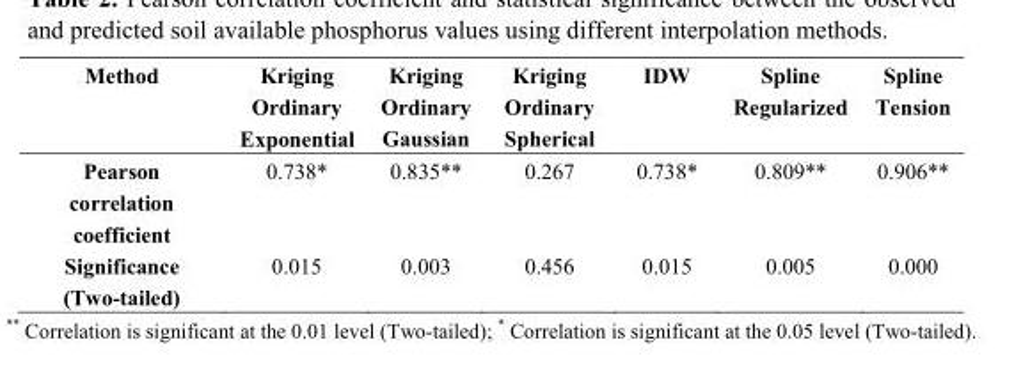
<table><thead><tr><td>Method</td><td>Kriging Ordinary Exponential</td><td>Kriging Ordinary Gaussian</td><td>Kriging Ordinary Spherical</td><td>IDW</td><td>Spline Regularized</td><td>Spline Tension</td></tr></thead><tbody><tr><td>Pearson correlation coefficient</td><td>0.738*</td><td>0.835**</td><td>0.267</td><td>0.738*</td><td>0.809**</td><td>0.906**</td></tr><tr><td>Significance (Two-tailed)</td><td>0.015</td><td>0.003</td><td>0.456</td><td>0.015</td><td>0.005</td><td>0.000</td></tr></tbody></table>